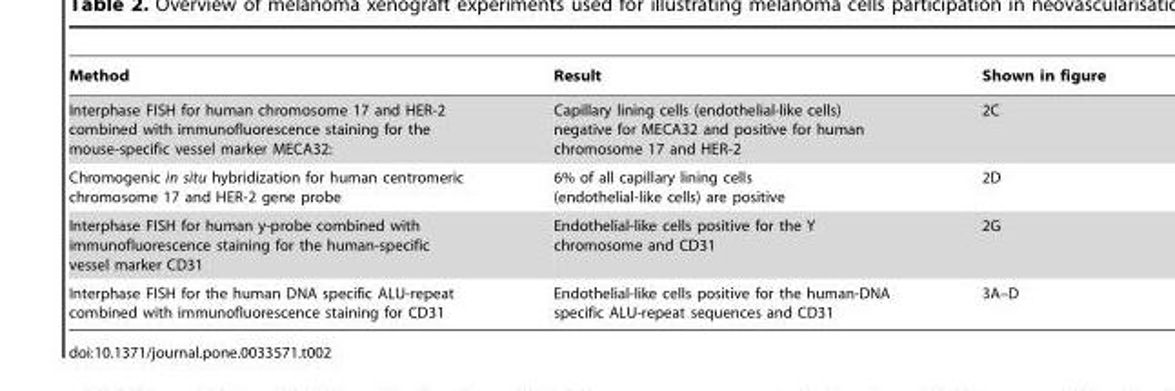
<table><thead><tr><td>Method</td><td>Result</td><td>Shown in figure</td></tr></thead><tbody><tr><td>Interphase FISH for human chromosome 17 and HER-2 combined with immunofluorescence staining for the mouse-specific vessel marker MECA32:</td><td>Capillary lining cells (endothelial-like cells) negative for MECA32 and positive for human chromosome 17 and HER-2</td><td>2C</td></tr><tr><td>Chromogenic in situ hybridization for human centromeric chromosome 17 and HER-2 gene probe</td><td>6% of all capillary lining cells (endothelial-like cells) are positive</td><td>2D</td></tr><tr><td>Interphase FISH for human y-probe combined with immunofluorescence staining for the human-specific vessel marker CD31</td><td>Endothelial-like cells positive for the Y chromosome and CD31</td><td>2G</td></tr><tr><td>Interphase FISH for the human DNA specific ALU-repeat combined with immunofluorescence staining for CD31</td><td>Endothelial-like cells positive for the human-DNA specific ALU-repeat sequences and CD31</td><td>3A–D</td></tr></tbody></table>